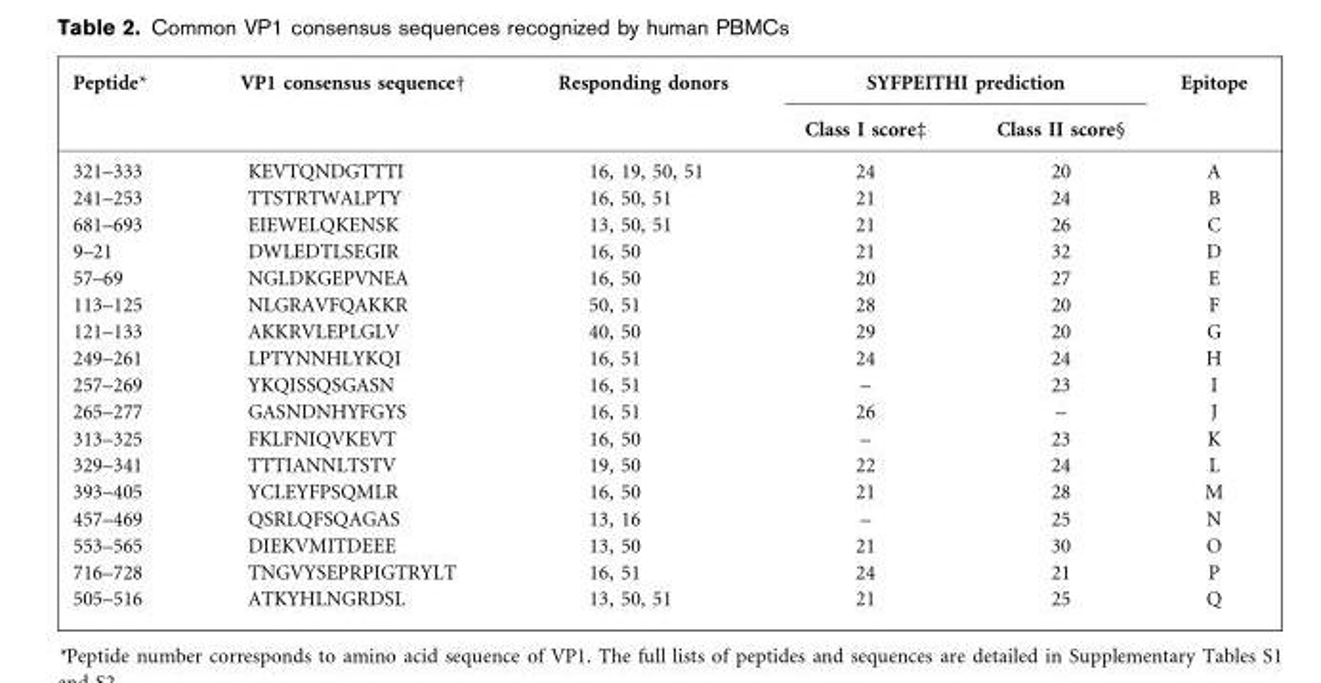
<table><thead><tr><td rowspan="2">Peptide*</td><td rowspan="2">VP1 consensus sequence†</td><td rowspan="2">Responding donors</td><td colspan="2">SYFPEITHI prediction</td><td rowspan="2">Epitope</td></tr><tr><td>Class I score‡</td><td>Class II score§</td></tr></thead><tbody><tr><td>321–333</td><td>KEVTQNDGTTTI</td><td>16, 19, 50, 51</td><td>24</td><td>20</td><td>A</td></tr><tr><td>241–253</td><td>TTSTRTWALPTY</td><td>16, 50, 51</td><td>21</td><td>24</td><td>B</td></tr><tr><td>681–693</td><td>EIEWELQKENSK</td><td>13, 50, 51</td><td>21</td><td>26</td><td>C</td></tr><tr><td>9–21</td><td>DWLEDTLSEGIR</td><td>16, 50</td><td>21</td><td>32</td><td>D</td></tr><tr><td>57–69</td><td>NGLDKGEPVNEA</td><td>16, 50</td><td>20</td><td>27</td><td>E</td></tr><tr><td>113–125</td><td>NLGRAVFQAKKR</td><td>50, 51</td><td>28</td><td>20</td><td>F</td></tr><tr><td>121–133</td><td>AKKRVLEPLGLV</td><td>40, 50</td><td>29</td><td>20</td><td>G</td></tr><tr><td>249–261</td><td>LPTYNNHLYKQI</td><td>16, 51</td><td>24</td><td>24</td><td>H</td></tr><tr><td>257–269</td><td>YKQISSQSGASN</td><td>16, 51</td><td>–</td><td>23</td><td>I</td></tr><tr><td>265–277</td><td>GASNDNHYFGYS</td><td>16, 51</td><td>26</td><td>–</td><td>J</td></tr><tr><td>313–325</td><td>FKLFNIQVKEVT</td><td>16, 50</td><td>–</td><td>23</td><td>K</td></tr><tr><td>329–341</td><td>TTTIANNLTSTV</td><td>19, 50</td><td>22</td><td>24</td><td>L</td></tr><tr><td>393–405</td><td>YCLEYFPSQMLR</td><td>16, 50</td><td>21</td><td>28</td><td>M</td></tr><tr><td>457–469</td><td>QSRLQFSQAGAS</td><td>13, 16</td><td>–</td><td>25</td><td>N</td></tr><tr><td>553–565</td><td>DIEKVMITDEEE</td><td>13, 50</td><td>21</td><td>30</td><td>O</td></tr><tr><td>716–728</td><td>TNGVYSEPRPIGTRYLT</td><td>16, 51</td><td>24</td><td>21</td><td>P</td></tr><tr><td>505–516</td><td>ATKYHLNGRDSL</td><td>13, 50, 51</td><td>21</td><td>25</td><td>Q</td></tr></tbody></table>